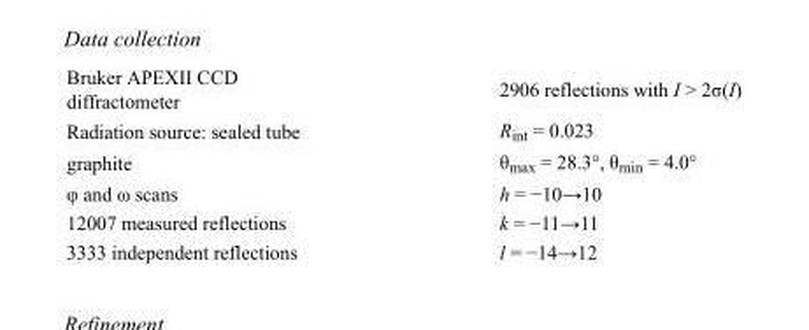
<table><tbody><tr><td>Bruker APEXII CCD diffractometer</td><td>2906 reflections with I &gt; 2σ(I)</td></tr><tr><td>Radiation source: sealed tube</td><td>R<sub>int</sub> = 0.023</td></tr><tr><td>graphite</td><td>θ<sub>max</sub> = 28.3°, θ<sub>min</sub> = 4.0°</td></tr><tr><td>φ and ω scans</td><td>h = −10→10</td></tr><tr><td>12007 measured reflections</td><td>k = −11→11</td></tr><tr><td>3333 independent reflections</td><td>l = −14→12</td></tr></tbody></table>